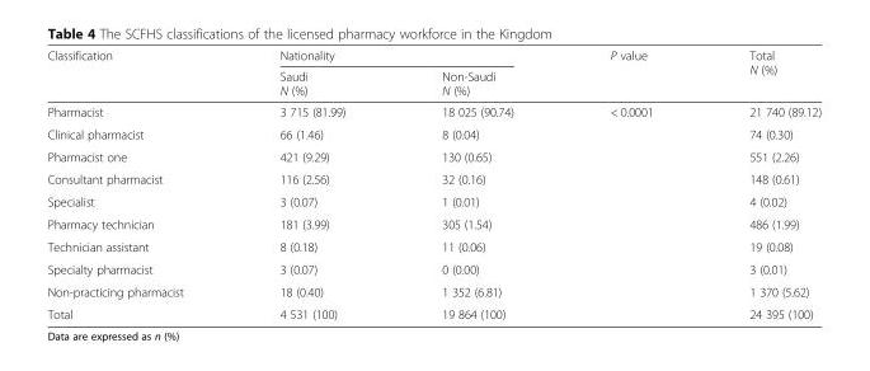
<table><thead><tr><td rowspan="2">Classification</td><td colspan="2">Nationality</td><td rowspan="2">P value</td><td rowspan="2">Total N (%)</td></tr><tr><td>Saudi N (%)</td><td>Non-Saudi N (%)</td></tr></thead><tbody><tr><td>Pharmacist</td><td>3 715 (81.99)</td><td>18 025 (90.74)</td><td rowspan="9">&lt; 0.0001</td><td>21 740 (89.12)</td></tr><tr><td>Clinical pharmacist</td><td>66 (1.46)</td><td>8 (0.04)</td><td>74 (0.30)</td></tr><tr><td>Pharmacist one</td><td>421 (9.29)</td><td>130 (0.65)</td><td>551 (2.26)</td></tr><tr><td>Consultant pharmacist</td><td>116 (2.56)</td><td>32 (0.16)</td><td>148 (0.61)</td></tr><tr><td>Specialist</td><td>3 (0.07)</td><td>1 (0.01)</td><td>4 (0.02)</td></tr><tr><td>Pharmacy technician</td><td>181 (3.99)</td><td>305 (1.54)</td><td>486 (1.99)</td></tr><tr><td>Technician assistant</td><td>8 (0.18)</td><td>11 (0.06)</td><td>19 (0.08)</td></tr><tr><td>Specialty pharmacist</td><td>3 (0.07)</td><td>0 (0.00)</td><td>3 (0.01)</td></tr><tr><td>Non-practicing pharmacist</td><td>18 (0.40)</td><td>1 352 (6.81)</td><td>1 370 (5.62)</td></tr><tr><td>Total</td><td>4 531 (100)</td><td>19 864 (100)</td><td></td><td>24 395 (100)</td></tr></tbody></table>